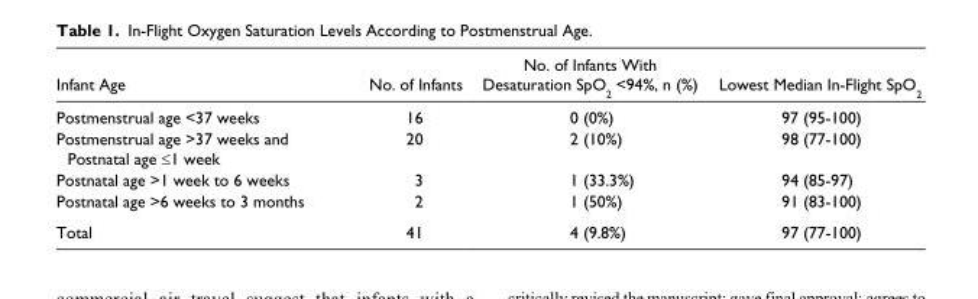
<table><thead><tr><td>Infant Age</td><td>No. of Infants</td><td>No. of Infants With Desaturation SpO<sub>2</sub> &lt;94%, n (%)</td><td>Lowest Median In-Flight SpO<sub>2</sub></td></tr></thead><tbody><tr><td>Postmenstrual age &lt;37 weeks</td><td>16</td><td>0 (0%)</td><td>97 (95-100)</td></tr><tr><td>Postmenstrual age &gt;37 weeks and Postnatal age ≤1 week</td><td>20</td><td>2 (10%)</td><td>98 (77-100)</td></tr><tr><td>Postnatal age &gt;1 week to 6 weeks</td><td>3</td><td>1 (33.3%)</td><td>94 (85-97)</td></tr><tr><td>Postnatal age &gt;6 weeks to 3 months</td><td>2</td><td>1 (50%)</td><td>91 (83-100)</td></tr><tr><td>Total</td><td>41</td><td>4 (9.8%)</td><td>97 (77-100)</td></tr></tbody></table>